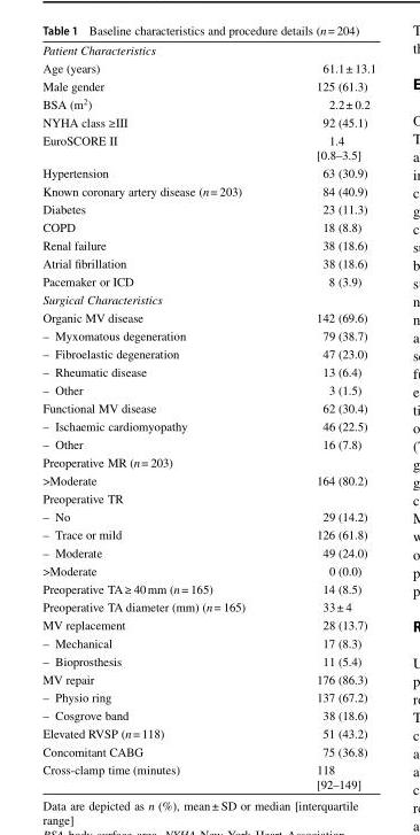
<table><tbody><tr><td colspan="2">Patient Characteristics</td></tr><tr><td>Age (years)</td><td>61.1± 13.1</td></tr><tr><td>Male gender</td><td>125 (61.3)</td></tr><tr><td>BSA (m<sup>2</sup>)</td><td>2.2± 0.2</td></tr><tr><td>NYHA class ≥III</td><td>92 (45.1)</td></tr><tr><td>EuroSCORE II</td><td>1.4 [0.8–3.5]</td></tr><tr><td>Hypertension</td><td>63 (30.9)</td></tr><tr><td>Known coronary artery disease (n= 203)</td><td>84 (40.9)</td></tr><tr><td>Diabetes</td><td>23 (11.3)</td></tr><tr><td>COPD</td><td>18 (8.8)</td></tr><tr><td>Renal failure</td><td>38 (18.6)</td></tr><tr><td>Atrial fibrillation</td><td>38 (18.6)</td></tr><tr><td>Pacemaker or ICD</td><td>8 (3.9)</td></tr><tr><td colspan="2">Surgical Characteristics</td></tr><tr><td>Organic MV disease</td><td>142 (69.6)</td></tr><tr><td>– Myxomatous degeneration</td><td>79 (38.7)</td></tr><tr><td>– Fibroelastic degeneration</td><td>47 (23.0)</td></tr><tr><td>– Rheumatic disease</td><td>13 (6.4)</td></tr><tr><td>– Other</td><td>3 (1.5)</td></tr><tr><td>Functional MV disease</td><td>62 (30.4)</td></tr><tr><td>– Ischaemic cardiomyopathy</td><td>46 (22.5)</td></tr><tr><td>– Other</td><td>16 (7.8)</td></tr><tr><td colspan="2">Preoperative MR (n= 203)</td></tr><tr><td>&gt;Moderate</td><td>164 (80.2)</td></tr><tr><td colspan="2">Preoperative TR</td></tr><tr><td>– No</td><td>29 (14.2)</td></tr><tr><td>– Trace or mild</td><td>126 (61.8)</td></tr><tr><td>– Moderate</td><td>49 (24.0)</td></tr><tr><td>&gt;Moderate</td><td>0 (0.0)</td></tr><tr><td>Preoperative TA≥ 40mm (n= 165)</td><td>14 (8.5)</td></tr><tr><td>Preoperative TA diameter (mm) (n= 165)</td><td>33± 4</td></tr><tr><td>MV replacement</td><td>28 (13.7)</td></tr><tr><td>– Mechanical</td><td>17 (8.3)</td></tr><tr><td>– Bioprosthesis</td><td>11 (5.4)</td></tr><tr><td>MV repair</td><td>176 (86.3)</td></tr><tr><td>– Physio ring</td><td>137 (67.2)</td></tr><tr><td>– Cosgrove band</td><td>38 (18.6)</td></tr><tr><td>Elevated RVSP (n= 118)</td><td>51 (43.2)</td></tr><tr><td>Concomitant CABG</td><td>75 (36.8)</td></tr><tr><td>Cross-clamp time (minutes)</td><td>118 [92–149]</td></tr></tbody></table>